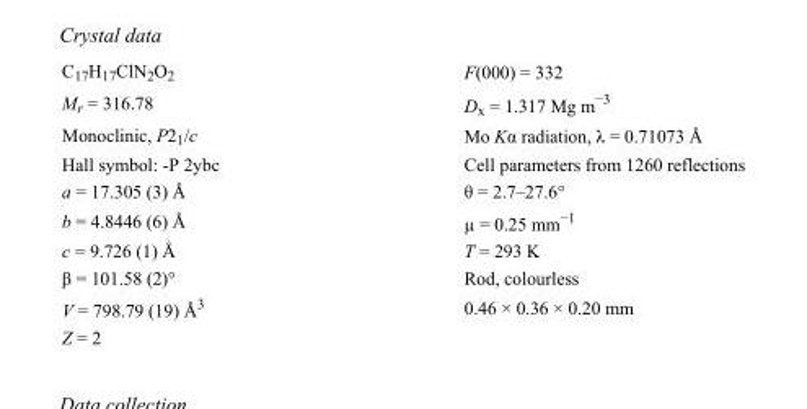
<table><tbody><tr><td>C<sub>17</sub>H<sub>17</sub>ClN<sub>2</sub>O<sub>2</sub></td><td>F(000) = 332</td></tr><tr><td>M<sub>r</sub> = 316.78</td><td>D<sub>x</sub> = 1.317 Mg m<sup>−3</sup></td></tr><tr><td>Monoclinic, P2<sub>1</sub>/c</td><td>Mo Kα radiation, λ = 0.71073 Å</td></tr><tr><td>Hall symbol: -P 2ybc</td><td>Cell parameters from 1260 reflections</td></tr><tr><td>a = 17.305 (3) Å</td><td>θ = 2.7–27.6°</td></tr><tr><td>b = 4.8446 (6) Å</td><td>µ = 0.25 mm<sup>−1</sup></td></tr><tr><td>c = 9.726 (1) Å</td><td>T = 293 K</td></tr><tr><td>β = 101.58 (2)°</td><td>Rod, colourless</td></tr><tr><td>V = 798.79 (19) Å<sup>3</sup></td><td>0.46 × 0.36 × 0.20 mm</td></tr><tr><td>Z = 2</td><td></td></tr></tbody></table>